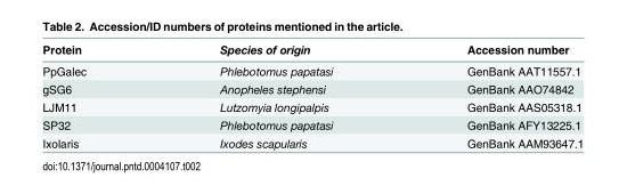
<table><thead><tr><td>Protein</td><td>Species of origin</td><td>Accession number</td></tr></thead><tbody><tr><td>PpGalec</td><td>Phlebotomus papatasi</td><td>GenBank AAT11557.1</td></tr><tr><td>gSG6</td><td>Anopheles stephensi</td><td>GenBank AAO74842</td></tr><tr><td>LJM11</td><td>Lutzomyia longipalpis</td><td>GenBank AAS05318.1</td></tr><tr><td>SP32</td><td>Phlebotomus papatasi</td><td>GenBank AFY13225.1</td></tr><tr><td>Ixolaris</td><td>Ixodes scapularis</td><td>GenBank AAM93647.1</td></tr></tbody></table>